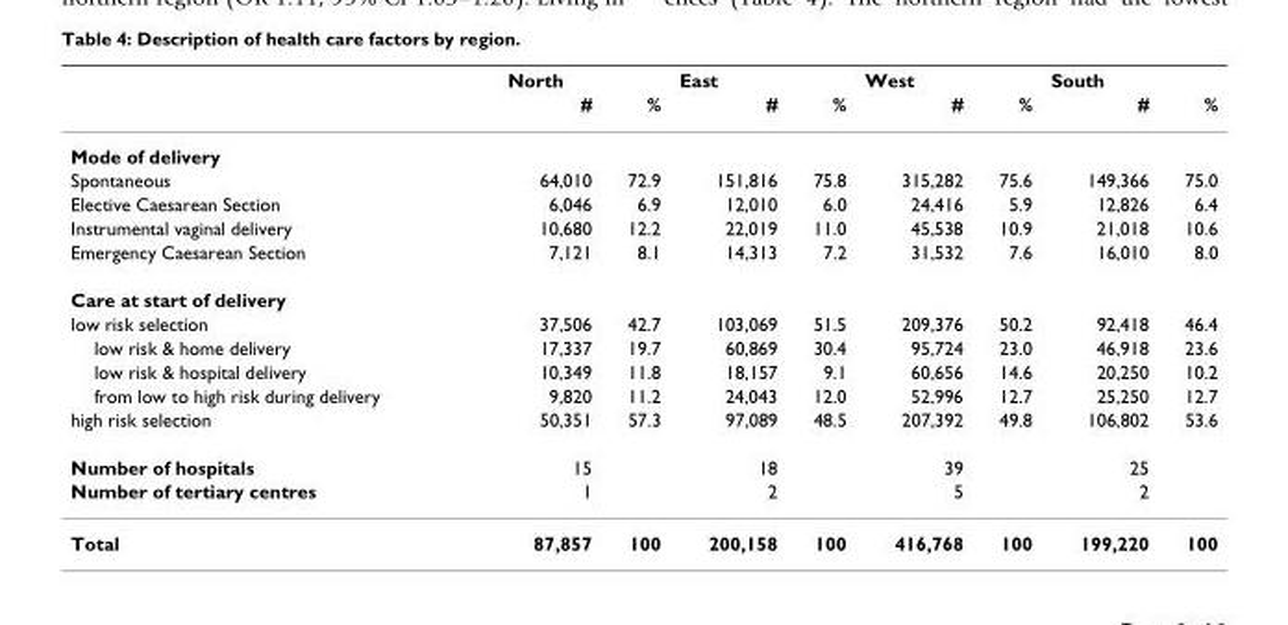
<table><thead><tr><td rowspan="2"></td><td colspan="2">North</td><td colspan="2">East</td><td colspan="2">West</td><td colspan="2">South</td></tr><tr><td>#</td><td>%</td><td>#</td><td>%</td><td>#</td><td>%</td><td>#</td><td>%</td></tr></thead><tbody><tr><td colspan="9">Mode of delivery</td></tr><tr><td>Spontaneous</td><td>64,010</td><td>72.9</td><td>151,816</td><td>75.8</td><td>315,282</td><td>75.6</td><td>149,366</td><td>75.0</td></tr><tr><td>Elective Caesarean Section</td><td>6,046</td><td>6.9</td><td>12,010</td><td>6.0</td><td>24,416</td><td>5.9</td><td>12,826</td><td>6.4</td></tr><tr><td>Instrumental vaginal delivery</td><td>10,680</td><td>12.2</td><td>22,019</td><td>11.0</td><td>45,538</td><td>10.9</td><td>21,018</td><td>10.6</td></tr><tr><td>Emergency Caesarean Section</td><td>7,121</td><td>8.1</td><td>14,313</td><td>7.2</td><td>31,532</td><td>7.6</td><td>16,010</td><td>8.0</td></tr><tr><td colspan="9">Care at start of delivery</td></tr><tr><td>low risk selection</td><td>37,506</td><td>42.7</td><td>103,069</td><td>51.5</td><td>209,376</td><td>50.2</td><td>92,418</td><td>46.4</td></tr><tr><td>low risk &amp; home delivery</td><td>17,337</td><td>19.7</td><td>60,869</td><td>30.4</td><td>95,724</td><td>23.0</td><td>46,918</td><td>23.6</td></tr><tr><td>low risk &amp; hospital delivery</td><td>10,349</td><td>11.8</td><td>18,157</td><td>9.1</td><td>60,656</td><td>14.6</td><td>20,250</td><td>10.2</td></tr><tr><td>from low to high risk during delivery</td><td>9,820</td><td>11.2</td><td>24,043</td><td>12.0</td><td>52,996</td><td>12.7</td><td>25,250</td><td>12.7</td></tr><tr><td>high risk selection</td><td>50,351</td><td>57.3</td><td>97,089</td><td>48.5</td><td>207,392</td><td>49.8</td><td>106,802</td><td>53.6</td></tr><tr><td>Number of hospitals</td><td>15</td><td></td><td>18</td><td></td><td>39</td><td></td><td>25</td><td></td></tr><tr><td>Number of tertiary centres</td><td>1</td><td></td><td>2</td><td></td><td>5</td><td></td><td>2</td><td></td></tr><tr><td>Total</td><td>87,857</td><td>100</td><td>200,158</td><td>100</td><td>416,768</td><td>100</td><td>199,220</td><td>100</td></tr></tbody></table>